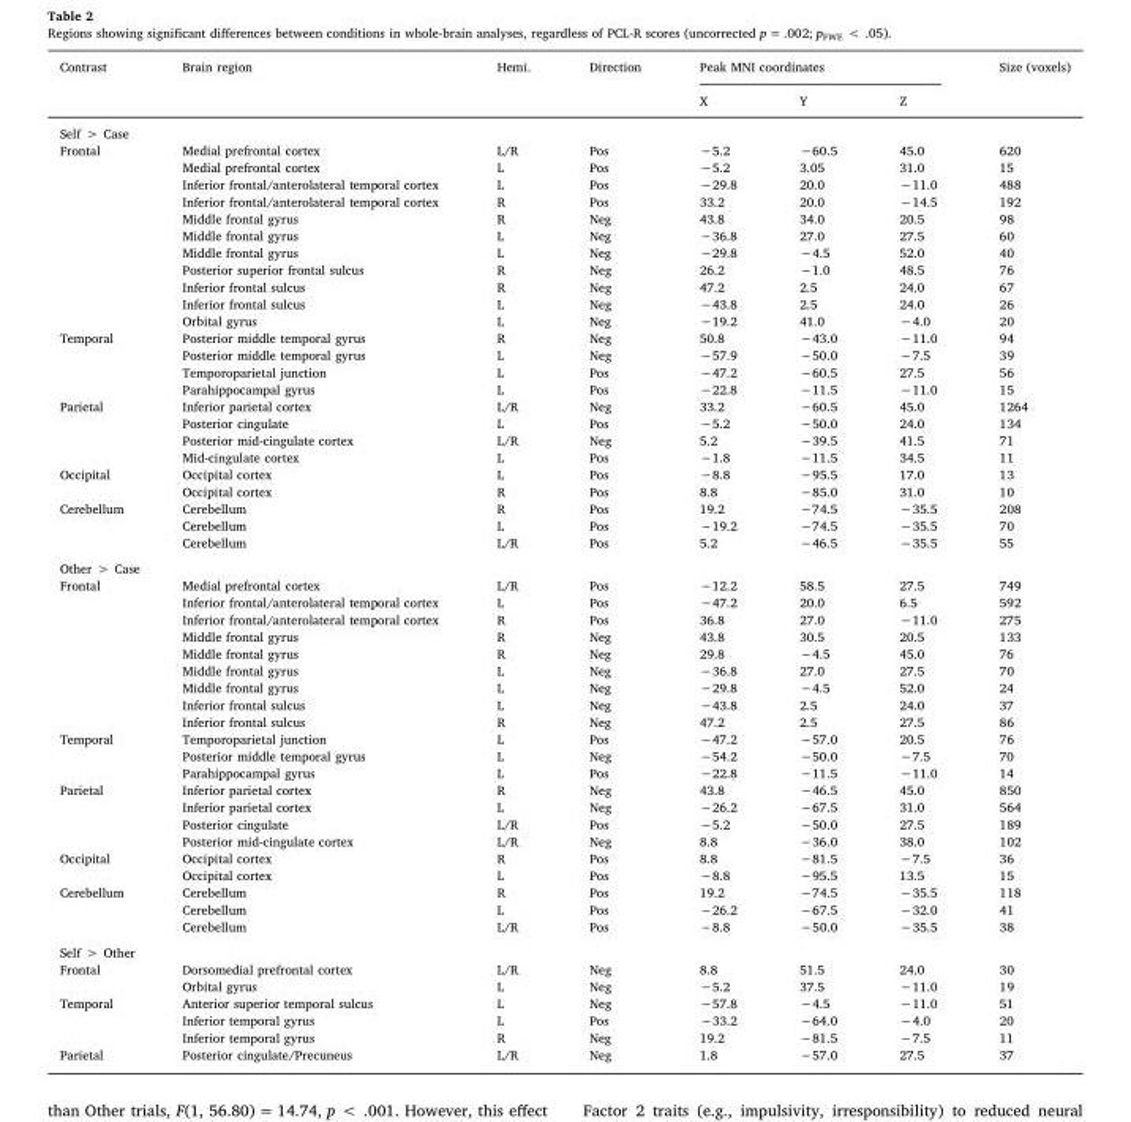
<table><thead><tr><td rowspan="2">Contrast</td><td rowspan="2">Brain region</td><td rowspan="2">Hemi.</td><td rowspan="2">Direction</td><td colspan="3">Peak MNI coordinates</td><td rowspan="2">Size (voxels)</td></tr><tr><td>X</td><td>Y</td><td>Z</td></tr></thead><tbody><tr><td colspan="8">Self &gt; Case</td></tr><tr><td rowspan="11">Frontal</td><td>Medial prefrontal cortex</td><td>L/R</td><td>Pos</td><td>−5.2</td><td>−60.5</td><td>45.0</td><td>620</td></tr><tr><td>Medial prefrontal cortex</td><td>L</td><td>Pos</td><td>−5.2</td><td>3.05</td><td>31.0</td><td>15</td></tr><tr><td>Inferior frontal/anterolateral temporal cortex</td><td>L</td><td>Pos</td><td>−29.8</td><td>20.0</td><td>−11.0</td><td>488</td></tr><tr><td>Inferior frontal/anterolateral temporal cortex</td><td>R</td><td>Pos</td><td>33.2</td><td>20.0</td><td>−14.5</td><td>192</td></tr><tr><td>Middle frontal gyrus</td><td>R</td><td>Neg</td><td>43.8</td><td>34.0</td><td>20.5</td><td>98</td></tr><tr><td>Middle frontal gyrus</td><td>L</td><td>Neg</td><td>−36.8</td><td>27.0</td><td>27.5</td><td>60</td></tr><tr><td>Middle frontal gyrus</td><td>L</td><td>Neg</td><td>−29.8</td><td>−4.5</td><td>52.0</td><td>40</td></tr><tr><td>Posterior superior frontal sulcus</td><td>R</td><td>Neg</td><td>26.2</td><td>−1.0</td><td>48.5</td><td>76</td></tr><tr><td>Inferior frontal sulcus</td><td>R</td><td>Neg</td><td>47.2</td><td>2.5</td><td>24.0</td><td>67</td></tr><tr><td>Inferior frontal sulcus</td><td>L</td><td>Neg</td><td>−43.8</td><td>2.5</td><td>24.0</td><td>26</td></tr><tr><td>Orbital gyrus</td><td>L</td><td>Neg</td><td>−19.2</td><td>41.0</td><td>−4.0</td><td>20</td></tr><tr><td rowspan="4">Temporal</td><td>Posterior middle temporal gyrus</td><td>R</td><td>Neg</td><td>50.8</td><td>−43.0</td><td>−11.0</td><td>94</td></tr><tr><td>Posterior middle temporal gyrus</td><td>L</td><td>Neg</td><td>−57.9</td><td>−50.0</td><td>−7.5</td><td>39</td></tr><tr><td>Temporoparietal junction</td><td>L</td><td>Pos</td><td>−47.2</td><td>−60.5</td><td>27.5</td><td>56</td></tr><tr><td>Parahippocampal gyrus</td><td>L</td><td>Pos</td><td>−22.8</td><td>−11.5</td><td>−11.0</td><td>15</td></tr><tr><td rowspan="4">Parietal</td><td>Inferior parietal cortex</td><td>L/R</td><td>Neg</td><td>33.2</td><td>−60.5</td><td>45.0</td><td>1264</td></tr><tr><td>Posterior cingulate</td><td>L</td><td>Pos</td><td>−5.2</td><td>−50.0</td><td>24.0</td><td>134</td></tr><tr><td>Posterior mid-cingulate cortex</td><td>L/R</td><td>Neg</td><td>5.2</td><td>−39.5</td><td>41.5</td><td>71</td></tr><tr><td>Mid-cingulate cortex</td><td>L</td><td>Pos</td><td>−1.8</td><td>−11.5</td><td>34.5</td><td>11</td></tr><tr><td rowspan="2">Occipital</td><td>Occipital cortex</td><td>L</td><td>Pos</td><td>−8.8</td><td>−95.5</td><td>17.0</td><td>13</td></tr><tr><td>Occipital cortex</td><td>R</td><td>Pos</td><td>8.8</td><td>−85.0</td><td>31.0</td><td>10</td></tr><tr><td rowspan="3">Cerebellum</td><td>Cerebellum</td><td>R</td><td>Pos</td><td>19.2</td><td>−74.5</td><td>−35.5</td><td>208</td></tr><tr><td>Cerebellum</td><td>L</td><td>Pos</td><td>−19.2</td><td>−74.5</td><td>−35.5</td><td>70</td></tr><tr><td>Cerebellum</td><td>L/R</td><td>Pos</td><td>5.2</td><td>−46.5</td><td>−35.5</td><td>55</td></tr><tr><td colspan="8">Other &gt; Case</td></tr><tr><td rowspan="9">Frontal</td><td>Medial prefrontal cortex</td><td>L/R</td><td>Pos</td><td>−12.2</td><td>58.5</td><td>27.5</td><td>749</td></tr><tr><td>Inferior frontal/anterolateral temporal cortex</td><td>L</td><td>Pos</td><td>−47.2</td><td>20.0</td><td>6.5</td><td>592</td></tr><tr><td>Inferior frontal/anterolateral temporal cortex</td><td>R</td><td>Pos</td><td>36.8</td><td>27.0</td><td>−11.0</td><td>275</td></tr><tr><td>Middle frontal gyrus</td><td>R</td><td>Neg</td><td>43.8</td><td>30.5</td><td>20.5</td><td>133</td></tr><tr><td>Middle frontal gyrus</td><td>R</td><td>Neg</td><td>29.8</td><td>−4.5</td><td>45.0</td><td>76</td></tr><tr><td>Middle frontal gyrus</td><td>L</td><td>Neg</td><td>−36.8</td><td>27.0</td><td>27.5</td><td>70</td></tr><tr><td>Middle frontal gyrus</td><td>L</td><td>Neg</td><td>−29.8</td><td>−4.5</td><td>52.0</td><td>24</td></tr><tr><td>Inferior frontal sulcus</td><td>L</td><td>Neg</td><td>−43.8</td><td>2.5</td><td>24.0</td><td>37</td></tr><tr><td>Inferior frontal sulcus</td><td>R</td><td>Neg</td><td>47.2</td><td>2.5</td><td>27.5</td><td>86</td></tr><tr><td rowspan="3">Temporal</td><td>Temporoparietal junction</td><td>L</td><td>Pos</td><td>−47.2</td><td>−57.0</td><td>20.5</td><td>76</td></tr><tr><td>Posterior middle temporal gyrus</td><td>L</td><td>Neg</td><td>−54.2</td><td>−50.0</td><td>−7.5</td><td>70</td></tr><tr><td>Parahippocampal gyrus</td><td>L</td><td>Pos</td><td>−22.8</td><td>−11.5</td><td>−11.0</td><td>14</td></tr><tr><td rowspan="4">Parietal</td><td>Inferior parietal cortex</td><td>R</td><td>Neg</td><td>43.8</td><td>−46.5</td><td>45.0</td><td>850</td></tr><tr><td>Inferior parietal cortex</td><td>L</td><td>Neg</td><td>−26.2</td><td>−67.5</td><td>31.0</td><td>564</td></tr><tr><td>Posterior cingulate</td><td>L/R</td><td>Pos</td><td>−5.2</td><td>−50.0</td><td>27.5</td><td>189</td></tr><tr><td>Posterior mid-cingulate cortex</td><td>L/R</td><td>Neg</td><td>8.8</td><td>−36.0</td><td>38.0</td><td>102</td></tr><tr><td rowspan="2">Occipital</td><td>Occipital cortex</td><td>R</td><td>Pos</td><td>8.8</td><td>−81.5</td><td>−7.5</td><td>36</td></tr><tr><td>Occipital cortex</td><td>L</td><td>Pos</td><td>−8.8</td><td>−95.5</td><td>13.5</td><td>15</td></tr><tr><td rowspan="3">Cerebellum</td><td>Cerebellum</td><td>R</td><td>Pos</td><td>19.2</td><td>−74.5</td><td>−35.5</td><td>118</td></tr><tr><td>Cerebellum</td><td>L</td><td>Pos</td><td>−26.2</td><td>−67.5</td><td>−32.0</td><td>41</td></tr><tr><td>Cerebellum</td><td>L/R</td><td>Pos</td><td>−8.8</td><td>−50.0</td><td>−35.5</td><td>38</td></tr><tr><td colspan="8">Self &gt; Other</td></tr><tr><td rowspan="2">Frontal</td><td>Dorsomedial prefrontal cortex</td><td>L/R</td><td>Neg</td><td>8.8</td><td>51.5</td><td>24.0</td><td>30</td></tr><tr><td>Orbital gyrus</td><td>L</td><td>Neg</td><td>−5.2</td><td>37.5</td><td>−11.0</td><td>19</td></tr><tr><td rowspan="3">Temporal</td><td>Anterior superior temporal sulcus</td><td>L</td><td>Neg</td><td>−57.8</td><td>−4.5</td><td>−11.0</td><td>51</td></tr><tr><td>Inferior temporal gyrus</td><td>L</td><td>Pos</td><td>−33.2</td><td>−64.0</td><td>−4.0</td><td>20</td></tr><tr><td>Inferior temporal gyrus</td><td>R</td><td>Neg</td><td>19.2</td><td>−81.5</td><td>−7.5</td><td>11</td></tr><tr><td>Parietal</td><td>Posterior cingulate/Precuneus</td><td>L/R</td><td>Neg</td><td>1.8</td><td>−57.0</td><td>27.5</td><td>37</td></tr></tbody></table>